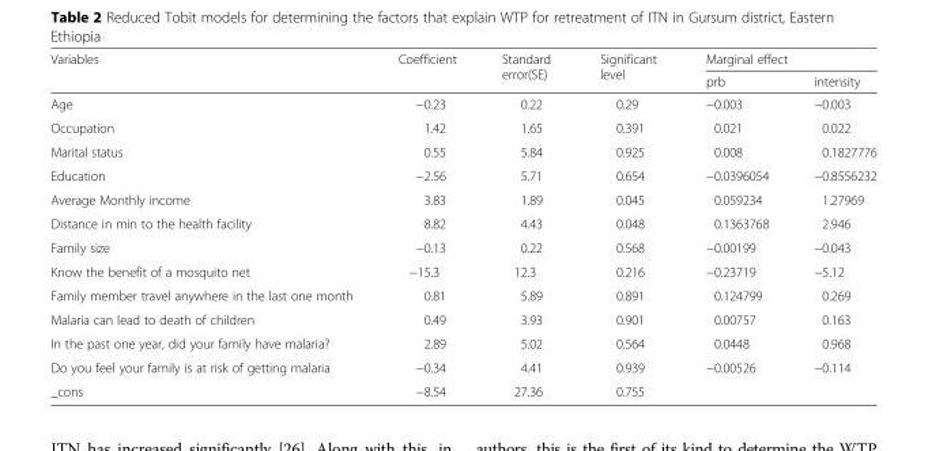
<table><thead><tr><td rowspan="2">Variables</td><td rowspan="2">Coefficient</td><td rowspan="2">Standard error(SE)</td><td rowspan="2">Significant level</td><td colspan="2">Marginal effect</td></tr><tr><td>prb</td><td>intensity</td></tr></thead><tbody><tr><td>Age</td><td>−0.23</td><td>0.22</td><td>0.29</td><td>−0.003</td><td>−0.003</td></tr><tr><td>Occupation</td><td>1.42</td><td>1.65</td><td>0.391</td><td>0.021</td><td>0.022</td></tr><tr><td>Marital status</td><td>0.55</td><td>5.84</td><td>0.925</td><td>0.008</td><td>0.1827776</td></tr><tr><td>Education</td><td>−2.56</td><td>5.71</td><td>0.654</td><td>−0.0396054</td><td>−0.8556232</td></tr><tr><td>Average Monthly income</td><td>3.83</td><td>1.89</td><td>0.045</td><td>0.059234</td><td>1.27969</td></tr><tr><td>Distance in min to the health facility</td><td>8.82</td><td>4.43</td><td>0.048</td><td>0.1363768</td><td>2.946</td></tr><tr><td>Family size</td><td>−0.13</td><td>0.22</td><td>0.568</td><td>−0.00199</td><td>−0.043</td></tr><tr><td>Know the benefit of a mosquito net</td><td>−15.3</td><td>12.3</td><td>0.216</td><td>−0.23719</td><td>−5.12</td></tr><tr><td>Family member travel anywhere in the last one month</td><td>0.81</td><td>5.89</td><td>0.891</td><td>0.124799</td><td>0.269</td></tr><tr><td>Malaria can lead to death of children</td><td>0.49</td><td>3.93</td><td>0.901</td><td>0.00757</td><td>0.163</td></tr><tr><td>In the past one year, did your family have malaria?</td><td>2.89</td><td>5.02</td><td>0.564</td><td>0.0448</td><td>0.968</td></tr><tr><td>Do you feel your family is at risk of getting malaria</td><td>−0.34</td><td>4.41</td><td>0.939</td><td>−0.00526</td><td>−0.114</td></tr><tr><td>_cons</td><td>−8.54</td><td>27.36</td><td>0.755</td><td></td><td></td></tr></tbody></table>